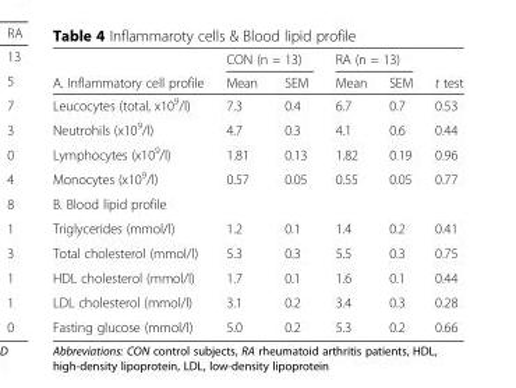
<table><thead><tr><td rowspan="2">A. Inflammatory cell profile</td><td colspan="2">CON (n = 13)</td><td colspan="2">RA (n = 13)</td><td rowspan="2">t test</td></tr><tr><td>Mean</td><td>SEM</td><td>Mean</td><td>SEM</td></tr></thead><tbody><tr><td>Leucocytes (total, x10<sup>9</sup>/l)</td><td>7.3</td><td>0.4</td><td>6.7</td><td>0.7</td><td>0.53</td></tr><tr><td>Neutrohils (x10<sup>9</sup>/l)</td><td>4.7</td><td>0.3</td><td>4.1</td><td>0.6</td><td>0.44</td></tr><tr><td>Lymphocytes (x10<sup>9</sup>/l)</td><td>1.81</td><td>0.13</td><td>1.82</td><td>0.19</td><td>0.96</td></tr><tr><td>Monocytes (x10<sup>9</sup>/l)</td><td>0.57</td><td>0.05</td><td>0.55</td><td>0.05</td><td>0.77</td></tr><tr><td colspan="6">B. Blood lipid profile</td></tr><tr><td>Triglycerides (mmol/l)</td><td>1.2</td><td>0.1</td><td>1.4</td><td>0.2</td><td>0.41</td></tr><tr><td>Total cholesterol (mmol/l)</td><td>5.3</td><td>0.3</td><td>5.5</td><td>0.3</td><td>0.75</td></tr><tr><td>HDL cholesterol (mmol/l)</td><td>1.7</td><td>0.1</td><td>1.6</td><td>0.1</td><td>0.44</td></tr><tr><td>LDL cholesterol (mmol/l)</td><td>3.1</td><td>0.2</td><td>3.4</td><td>0.3</td><td>0.28</td></tr><tr><td>Fasting glucose (mmol/l)</td><td>5.0</td><td>0.2</td><td>5.3</td><td>0.2</td><td>0.66</td></tr></tbody></table>